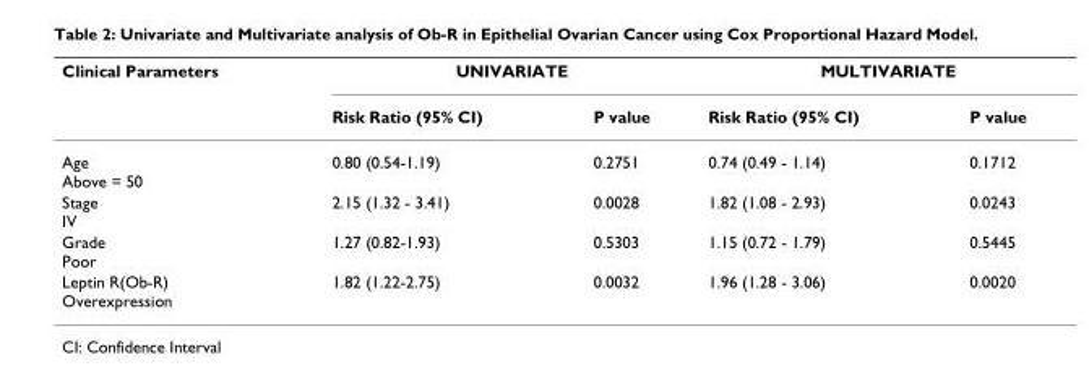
<table><thead><tr><td rowspan="2">Clinical Parameters</td><td colspan="2">UNIVARIATE</td><td colspan="2">MULTIVARIATE</td></tr><tr><td>Risk Ratio (95% CI)</td><td>P value</td><td>Risk Ratio (95% CI)</td><td>P value</td></tr></thead><tbody><tr><td>Age Above = 50</td><td>0.80 (0.54-1.19)</td><td>0.2751</td><td>0.74 (0.49 - 1.14)</td><td>0.1712</td></tr><tr><td>Stage IV</td><td>2.15 (1.32 - 3.41)</td><td>0.0028</td><td>1.82 (1.08 - 2.93)</td><td>0.0243</td></tr><tr><td>Grade Poor</td><td>1.27 (0.82-1.93)</td><td>0.5303</td><td>1.15 (0.72 - 1.79)</td><td>0.5445</td></tr><tr><td>Leptin R(Ob-R) Overexpression</td><td>1.82 (1.22-2.75)</td><td>0.0032</td><td>1.96 (1.28 - 3.06)</td><td>0.0020</td></tr></tbody></table>